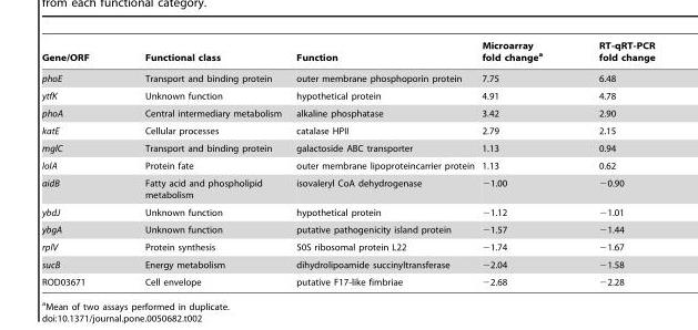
<table><thead><tr><td>Gene/ORF</td><td>Functional class</td><td>Function</td><td>Microarray fold change<sup>a</sup></td><td>RT-qRT-PCR fold change</td></tr></thead><tbody><tr><td>phoE</td><td>Transport and binding protein</td><td>outer membrane phosphoporin protein</td><td>7.75</td><td>6.48</td></tr><tr><td>ytfK</td><td>Unknown function</td><td>hypothetical protein</td><td>4.91</td><td>4.78</td></tr><tr><td>phoA</td><td>Central intermediary metabolism</td><td>alkaline phosphatase</td><td>3.42</td><td>2.90</td></tr><tr><td>katE</td><td>Cellular processes</td><td>catalase HPII</td><td>2.79</td><td>2.15</td></tr><tr><td>mglC</td><td>Transport and binding protein</td><td>galactoside ABC transporter</td><td>1.13</td><td>0.94</td></tr><tr><td>lolA</td><td>Protein fate</td><td>outer membrane lipoproteincarrier protein</td><td>1.13</td><td>0.62</td></tr><tr><td>aidB</td><td>Fatty acid and phospholipid metabolism</td><td>isovaleryl CoA dehydrogenase</td><td>−1.00</td><td>−0.90</td></tr><tr><td>ybdJ</td><td>Unknown function</td><td>hypothetical protein</td><td>−1.12</td><td>−1.01</td></tr><tr><td>ybgA</td><td>Unknown function</td><td>putative pathogenicity island protein</td><td>−1.57</td><td>−1.44</td></tr><tr><td>rplV</td><td>Protein synthesis</td><td>50S ribosomal protein L22</td><td>−1.74</td><td>−1.67</td></tr><tr><td>sucB</td><td>Energy metabolism</td><td>dihydrolipoamide succinyltransferase</td><td>−2.04</td><td>−1.58</td></tr><tr><td>ROD03671</td><td>Cell envelope</td><td>putative F17-like fimbriae</td><td>−2.68</td><td>−2.28</td></tr></tbody></table>